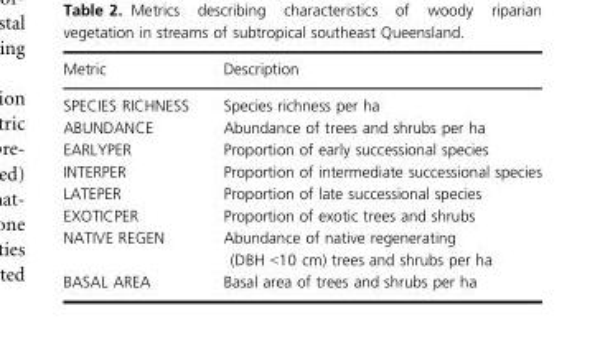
<table><thead><tr><td>Metric</td><td>Description</td></tr></thead><tbody><tr><td>SPECIES RICHNESS</td><td>Species richness per ha</td></tr><tr><td>ABUNDANCE</td><td>Abundance of trees and shrubs per ha</td></tr><tr><td>EARLYPER</td><td>Proportion of early successional species</td></tr><tr><td>INTERPER</td><td>Proportion of intermediate successional species</td></tr><tr><td>LATEPER</td><td>Proportion of late successional species</td></tr><tr><td>EXOTICPER</td><td>Proportion of exotic trees and shrubs</td></tr><tr><td>NATIVE REGEN</td><td>Abundance of native regenerating (DBH &lt;10 cm) trees and shrubs per ha</td></tr><tr><td>BASAL AREA</td><td>Basal area of trees and shrubs per ha</td></tr></tbody></table>